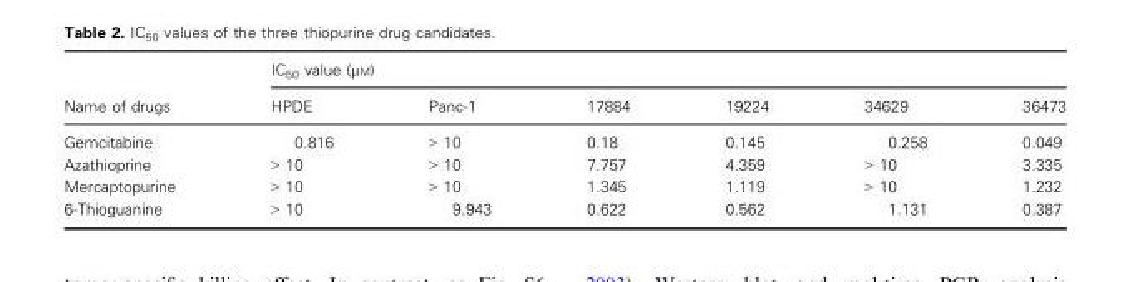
<table><thead><tr><td rowspan="2">Name of drugs</td><td colspan="6">IC<sub>50</sub> value (μM)</td></tr><tr><td>HPDE</td><td>Panc-1</td><td>17884</td><td>19224</td><td>34629</td><td>36473</td></tr></thead><tbody><tr><td>Gemcitabine</td><td>0.816</td><td>&gt; 10</td><td>0.18</td><td>0.145</td><td>0.258</td><td>0.049</td></tr><tr><td>Azathioprine</td><td>&gt; 10</td><td>&gt; 10</td><td>7.757</td><td>4.359</td><td>&gt; 10</td><td>3.335</td></tr><tr><td>Mercaptopurine</td><td>&gt; 10</td><td>&gt; 10</td><td>1.345</td><td>1.119</td><td>&gt; 10</td><td>1.232</td></tr><tr><td>6-Thioguanine</td><td>&gt; 10</td><td>9.943</td><td>0.622</td><td>0.562</td><td>1.131</td><td>0.387</td></tr></tbody></table>